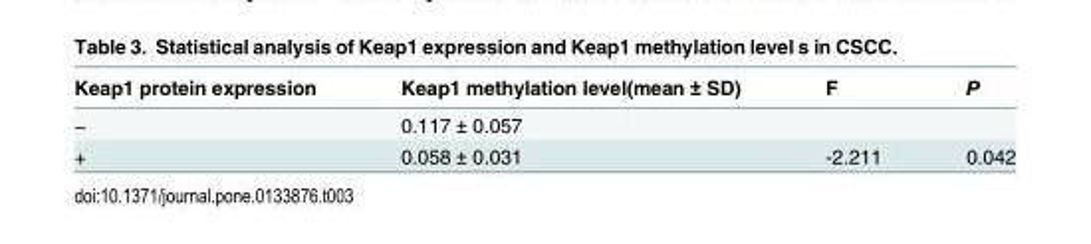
<table><thead><tr><td>Keap1 protein expression</td><td>Keap1 methylation level(mean ± SD)</td><td>F</td><td>P</td></tr></thead><tbody><tr><td>−</td><td>0.117 ± 0.057</td><td></td><td></td></tr><tr><td>+</td><td>0.058 ± 0.031</td><td>-2.211</td><td>0.042</td></tr></tbody></table>